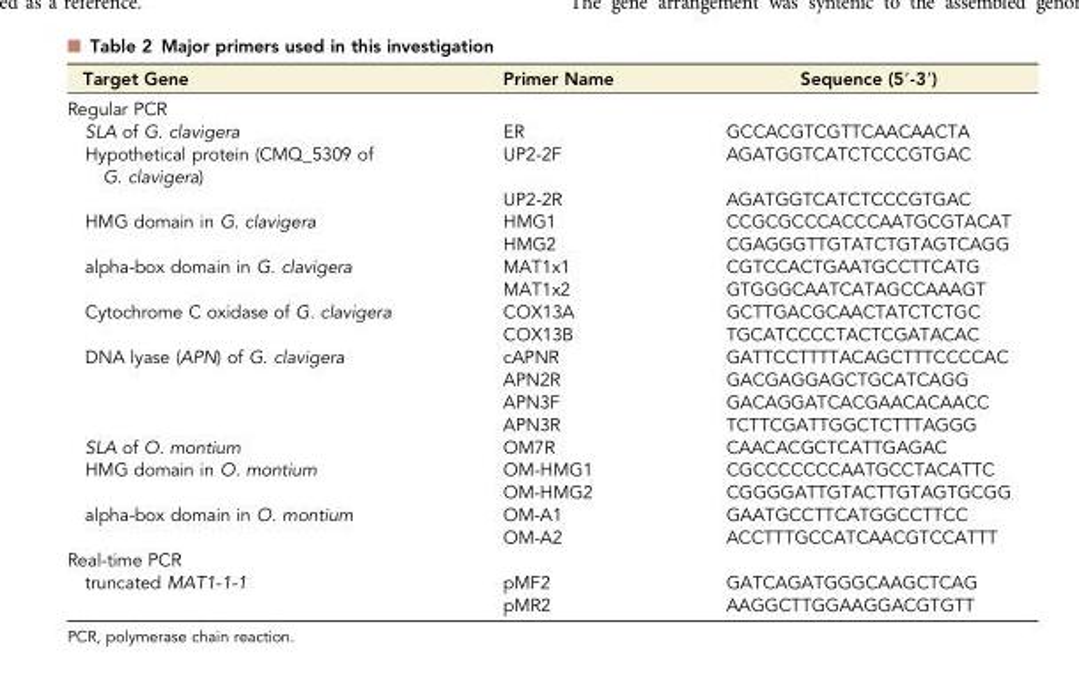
<table><thead><tr><td>Target Gene</td><td>Primer Name</td><td>Sequence (5′-3′)</td></tr></thead><tbody><tr><td colspan="3">Regular PCR</td></tr><tr><td>SLA of G. clavigera</td><td>ER</td><td>GCCACGTCGTTCAACAACTA</td></tr><tr><td>Hypothetical protein (CMQ_5309 of</td><td rowspan="2">UP2-2F</td><td rowspan="2">AGATGGTCATCTCCCGTGAC</td></tr><tr><td rowspan="2">G. clavigera)</td></tr><tr><td>UP2-2R</td><td>AGATGGTCATCTCCCGTGAC</td></tr><tr><td rowspan="2">HMG domain in G. clavigera</td><td>HMG1</td><td>CCGCGCCCACCCAATGCGTACAT</td></tr><tr><td>HMG2</td><td>CGAGGGTTGTATCTGTAGTCAGG</td></tr><tr><td rowspan="2">alpha-box domain in G. clavigera</td><td>MAT1x1</td><td>CGTCCACTGAATGCCTTCATG</td></tr><tr><td>MAT1x2</td><td>GTGGGCAATCATAGCCAAAGT</td></tr><tr><td rowspan="2">Cytochrome C oxidase of G. clavigera</td><td>COX13A</td><td>GCTTGACGCAACTATCTCTGC</td></tr><tr><td>COX13B</td><td>TGCATCCCCTACTCGATACAC</td></tr><tr><td rowspan="4">DNA lyase (APN) of G. clavigera</td><td>cAPNR</td><td>GATTCCTTTTACAGCTTTCCCCAC</td></tr><tr><td>APN2R</td><td>GACGAGGAGCTGCATCAGG</td></tr><tr><td>APN3F</td><td>GACAGGATCACGAACACAACC</td></tr><tr><td>APN3R</td><td>TCTTCGATTGGCTCTTTAGGG</td></tr><tr><td>SLA of O. montium</td><td>OM7R</td><td>CAACACGCTCATTGAGAC</td></tr><tr><td rowspan="2">HMG domain in O. montium</td><td>OM-HMG1</td><td>CGCCCCCCCAATGCCTACATTC</td></tr><tr><td>OM-HMG2</td><td>CGGGGATTGTACTTGTAGTGCGG</td></tr><tr><td rowspan="2">alpha-box domain in O. montium</td><td>OM-A1</td><td>GAATGCCTTCATGGCCTTCC</td></tr><tr><td>OM-A2</td><td>ACCTTTGCCATCAACGTCCATTT</td></tr><tr><td colspan="3">Real-time PCR</td></tr><tr><td rowspan="2">truncated MAT1-1-1</td><td>pMF2</td><td>GATCAGATGGGCAAGCTCAG</td></tr><tr><td>pMR2</td><td>AAGGCTTGGAAGGACGTGTT</td></tr></tbody></table>